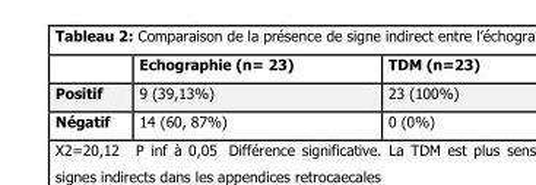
<table><thead><tr><td></td><td>Echographie (n= 23)</td><td>TDM (n=23)</td></tr></thead><tbody><tr><td>Positif</td><td>9 (39,13%)</td><td>23 (100%)</td></tr><tr><td>Négatif</td><td>14 (60, 87%)</td><td>0 (0%)</td></tr></tbody></table>